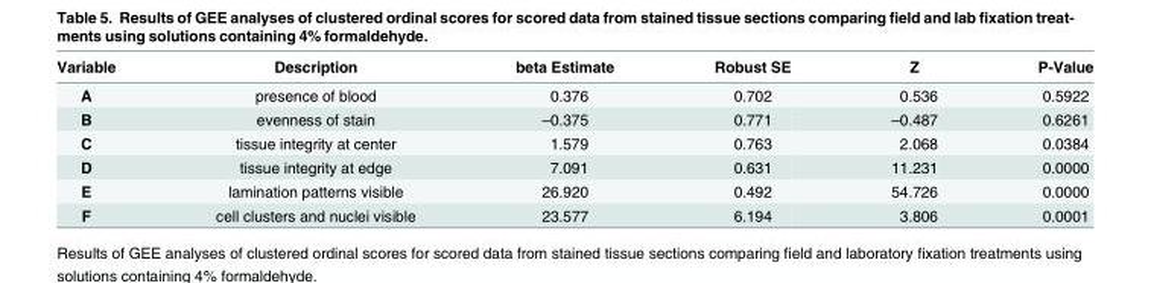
<table><thead><tr><td>Variable</td><td>Description</td><td>beta Estimate</td><td>Robust SE</td><td>Z</td><td>P-Value</td></tr></thead><tbody><tr><td>A</td><td>presence of blood</td><td>0.376</td><td>0.702</td><td>0.536</td><td>0.5922</td></tr><tr><td>B</td><td>evenness of stain</td><td>–0.375</td><td>0.771</td><td>–0.487</td><td>0.6261</td></tr><tr><td>C</td><td>tissue integrity at center</td><td>1.579</td><td>0.763</td><td>2.068</td><td>0.0384</td></tr><tr><td>D</td><td>tissue integrity at edge</td><td>7.091</td><td>0.631</td><td>11.231</td><td>0.0000</td></tr><tr><td>E</td><td>lamination patterns visible</td><td>26.920</td><td>0.492</td><td>54.726</td><td>0.0000</td></tr><tr><td>F</td><td>cell clusters and nuclei visible</td><td>23.577</td><td>6.194</td><td>3.806</td><td>0.0001</td></tr></tbody></table>